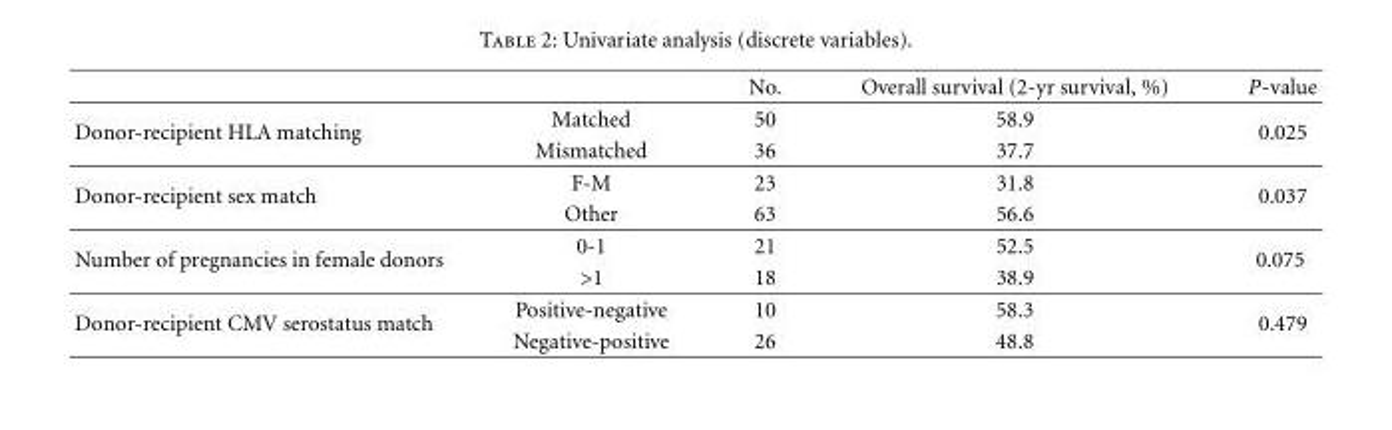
<table><thead><tr><td></td><td></td><td>No.</td><td>Overall survival (2-yr survival, %)</td><td>P-value</td></tr></thead><tbody><tr><td rowspan="2">Donor-recipient HLA matching</td><td>Matched</td><td>50</td><td>58.9</td><td rowspan="2">0.025</td></tr><tr><td>Mismatched</td><td>36</td><td>37.7</td></tr><tr><td rowspan="2">Donor-recipient sex match</td><td>F-M</td><td>23</td><td>31.8</td><td rowspan="2">0.037</td></tr><tr><td>Other</td><td>63</td><td>56.6</td></tr><tr><td rowspan="2">Number of pregnancies in female donors</td><td>0-1</td><td>21</td><td>52.5</td><td rowspan="2">0.075</td></tr><tr><td>&gt;1</td><td>18</td><td>38.9</td></tr><tr><td rowspan="2">Donor-recipient CMV serostatus match</td><td>Positive-negative</td><td>10</td><td>58.3</td><td rowspan="2">0.479</td></tr><tr><td>Negative-positive</td><td>26</td><td>48.8</td></tr></tbody></table>